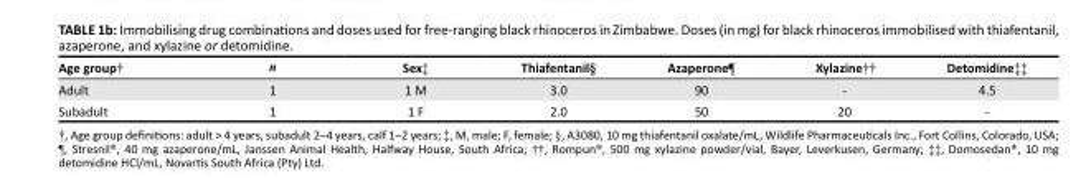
<table><thead><tr><td>Age group†</td><td>n</td><td>Sex‡</td><td>Thiafentanil§</td><td>Azaperone¶</td><td>Xylazine††</td><td>Detomidine‡‡</td></tr></thead><tbody><tr><td>Adult</td><td>1</td><td>1 M</td><td>3.0</td><td>90</td><td>-</td><td>4.5</td></tr><tr><td>Subadult</td><td>1</td><td>1 F</td><td>2.0</td><td>50</td><td>20</td><td>-</td></tr></tbody></table>